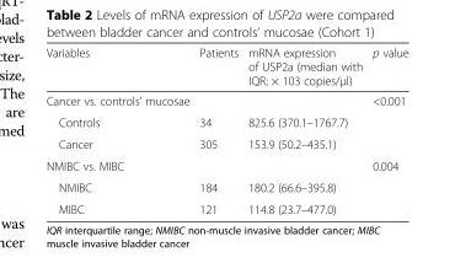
<table><thead><tr><td>Variables</td><td>Patients</td><td>mRNA expression of USP2a (median with IQR; × 103 copies/μl)</td><td>p value</td></tr></thead><tbody><tr><td>Cancer vs. controls’ mucosae</td><td></td><td></td><td>&lt;0.001</td></tr><tr><td>Controls</td><td>34</td><td>825.6 (370.1–1767.7)</td><td></td></tr><tr><td>Cancer</td><td>305</td><td>153.9 (50.2–435.1)</td><td></td></tr><tr><td>NMIBC vs. MIBC</td><td></td><td></td><td>0.004</td></tr><tr><td>NMIBC</td><td>184</td><td>180.2 (66.6–395.8)</td><td></td></tr><tr><td>MIBC</td><td>121</td><td>114.8 (23.7–477.0)</td><td></td></tr></tbody></table>